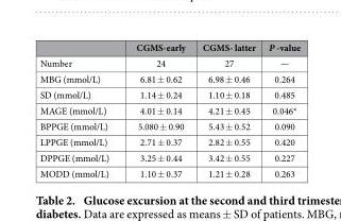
<table><thead><tr><td></td><td>CGMS-early</td><td>CGMS- latter</td><td>P -value</td></tr></thead><tbody><tr><td>Number</td><td>24</td><td>27</td><td>—</td></tr><tr><td>MBG (mmol/L)</td><td>6.81 ± 0.62</td><td>6.98 ± 0.46</td><td>0.264</td></tr><tr><td>SD (mmol/L)</td><td>1.14 ± 0.24</td><td>1.10 ± 0.18</td><td>0.485</td></tr><tr><td>MAGE (mmol/L)</td><td>4.01 ± 0.14</td><td>4.21 ± 0.45</td><td>0.046*</td></tr><tr><td>BPPGE (mmol/L)</td><td>5.080 ± 0.90</td><td>5.43 ± 0.52</td><td>0.090</td></tr><tr><td>LPPGE (mmol/L)</td><td>2.71 ± 0.37</td><td>2.82 ± 0.55</td><td>0.420</td></tr><tr><td>DPPGE (mmol/L)</td><td>3.25 ± 0.44</td><td>3.42 ± 0.55</td><td>0.227</td></tr><tr><td>MODD (mmol/L)</td><td>1.10 ± 0.37</td><td>1.21 ± 0.28</td><td>0.263</td></tr></tbody></table>